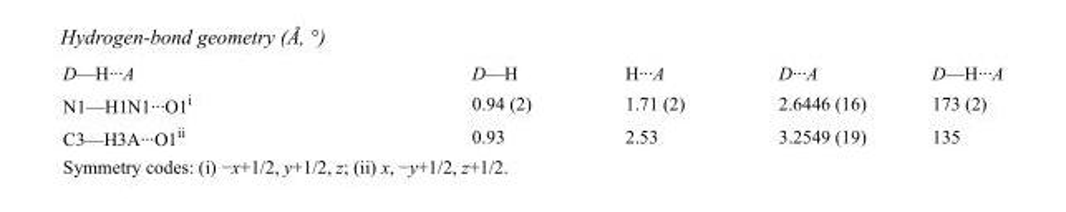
<table><tbody><tr><td>D—H···A</td><td>D—H</td><td>H···A</td><td>D···A</td><td>D—H···A</td></tr><tr><td>N1—H1N1···O1<sup>i</sup></td><td>0.94 (2)</td><td>1.71 (2)</td><td>2.6446 (16)</td><td>173 (2)</td></tr><tr><td>C3—H3A···O1<sup>ii</sup></td><td>0.93</td><td>2.53</td><td>3.2549 (19)</td><td>135</td></tr></tbody></table>